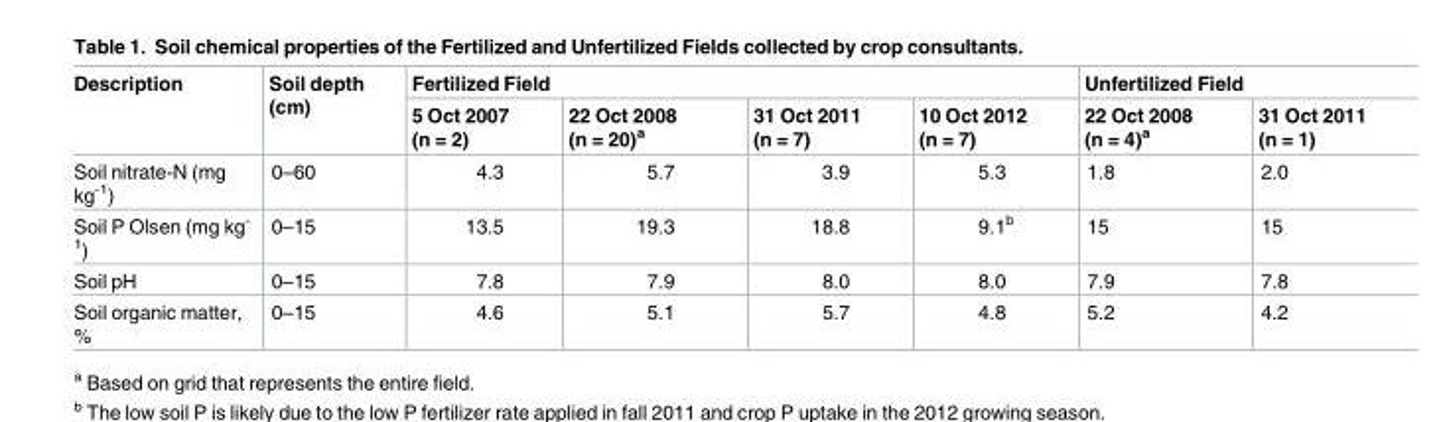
<table><thead><tr><td rowspan="2">Description</td><td rowspan="2">Soil depth (cm)</td><td colspan="4">Fertilized Field</td><td colspan="2">Unfertilized Field</td></tr><tr><td>5 Oct 2007 (n = 2)</td><td>22 Oct 2008 (n = 20)<sup>a</sup></td><td>31 Oct 2011 (n = 7)</td><td>10 Oct 2012 (n = 7)</td><td>22 Oct 2008 (n = 4)<sup>a</sup></td><td>31 Oct 2011 (n = 1)</td></tr></thead><tbody><tr><td>Soil nitrate-N (mg kg<sup>-1</sup>)</td><td>0–60</td><td>4.3</td><td>5.7</td><td>3.9</td><td>5.3</td><td>1.8</td><td>2.0</td></tr><tr><td>Soil P Olsen (mg kg<sup>- 1</sup>)</td><td>0–15</td><td>13.5</td><td>19.3</td><td>18.8</td><td>9.1<sup>b</sup></td><td>15</td><td>15</td></tr><tr><td>Soil pH</td><td>0–15</td><td>7.8</td><td>7.9</td><td>8.0</td><td>8.0</td><td>7.9</td><td>7.8</td></tr><tr><td>Soil organic matter, %</td><td>0–15</td><td>4.6</td><td>5.1</td><td>5.7</td><td>4.8</td><td>5.2</td><td>4.2</td></tr></tbody></table>